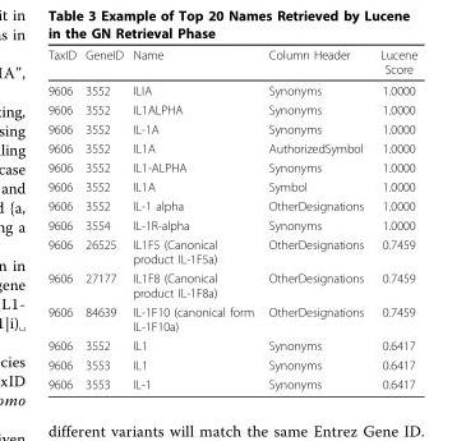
<table><thead><tr><td>TaxID</td><td>GeneID</td><td>Name</td><td>Column Header</td><td>Lucene Score</td></tr></thead><tbody><tr><td>9606</td><td>3552</td><td>ILIA</td><td>Synonyms</td><td>1.0000</td></tr><tr><td>9606</td><td>3552</td><td>IL1ALPHA</td><td>Synonyms</td><td>1.0000</td></tr><tr><td>9606</td><td>3552</td><td>IL-1A</td><td>Synonyms</td><td>1.0000</td></tr><tr><td>9606</td><td>3552</td><td>IL1A</td><td>AuthorizedSymbol</td><td>1.0000</td></tr><tr><td>9606</td><td>3552</td><td>IL1-ALPHA</td><td>Synonyms</td><td>1.0000</td></tr><tr><td>9606</td><td>3552</td><td>IL1A</td><td>Symbol</td><td>1.0000</td></tr><tr><td>9606</td><td>3552</td><td>IL-1 alpha</td><td>OtherDesignations</td><td>1.0000</td></tr><tr><td>9606</td><td>3554</td><td>IL-1R-alpha</td><td>Synonyms</td><td>1.0000</td></tr><tr><td>9606</td><td>26525</td><td>IL1F5 (Canonical product IL-1F5a)</td><td>OtherDesignations</td><td>0.7459</td></tr><tr><td>9606</td><td>27177</td><td>IL1F8 (Canonical product IL-1F8a)</td><td>OtherDesignations</td><td>0.7459</td></tr><tr><td>9606</td><td>84639</td><td>IL-1F10 (canonical form IL-1F10a)</td><td>OtherDesignations</td><td>0.7459</td></tr><tr><td>9606</td><td>3552</td><td>IL1</td><td>Synonyms</td><td>0.6417</td></tr><tr><td>9606</td><td>3553</td><td>IL1</td><td>Synonyms</td><td>0.6417</td></tr><tr><td>9606</td><td>3553</td><td>IL-1</td><td>Synonyms</td><td>0.6417</td></tr></tbody></table>